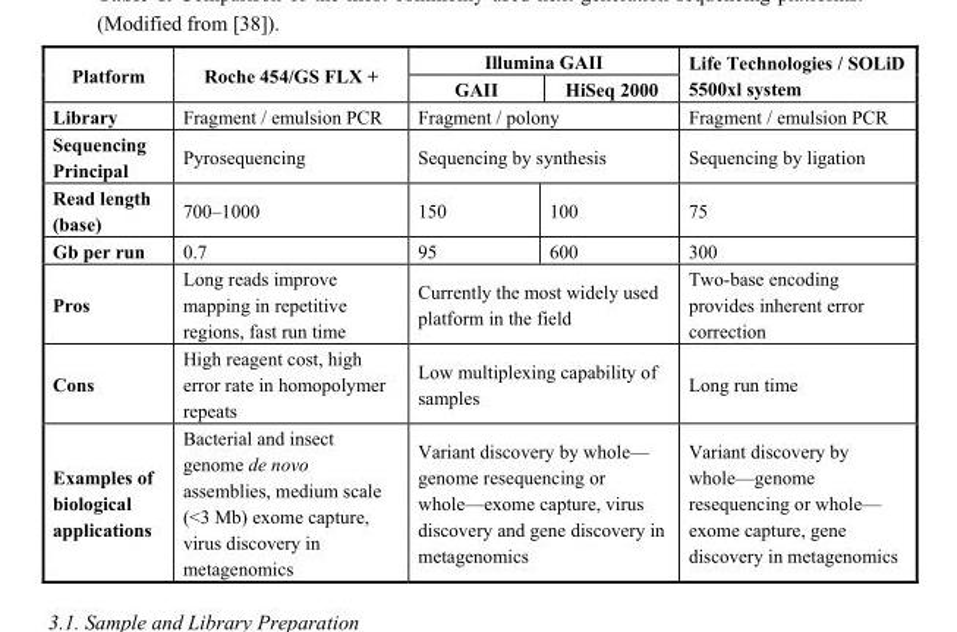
<table><thead><tr><td rowspan="2">Platform</td><td rowspan="2">Roche 454/GS FLX +</td><td colspan="2">Illumina GAII</td><td rowspan="2">Life Technologies / SOLiD 5500xl system</td></tr><tr><td>GAII</td><td>HiSeq 2000</td></tr></thead><tbody><tr><td>Library</td><td>Fragment / emulsion PCR</td><td colspan="2">Fragment / polony</td><td>Fragment / emulsion PCR</td></tr><tr><td>Sequencing Principal</td><td>Pyrosequencing</td><td colspan="2">Sequencing by synthesis</td><td>Sequencing by ligation</td></tr><tr><td>Read length (base)</td><td>700–1000</td><td>150</td><td>100</td><td>75</td></tr><tr><td>Gb per run</td><td>0.7</td><td>95</td><td>600</td><td>300</td></tr><tr><td>Pros</td><td>Long reads improve mapping in repetitive regions, fast run time</td><td colspan="2">Currently the most widely used platform in the field</td><td>Two-base encoding provides inherent error correction</td></tr><tr><td>Cons</td><td>High reagent cost, high error rate in homopolymer repeats</td><td colspan="2">Low multiplexing capability of samples</td><td>Long run time</td></tr><tr><td>Examples of biological applications</td><td>Bacterial and insect genome de novo assemblies, medium scale (&lt;3 Mb) exome capture, virus discovery in metagenomics</td><td colspan="2">Variant discovery by whole— genome resequencing or whole—exome capture, virus discovery and gene discovery in metagenomics</td><td>Variant discovery by whole—genome resequencing or whole— exome capture, gene discovery in metagenomics</td></tr></tbody></table>